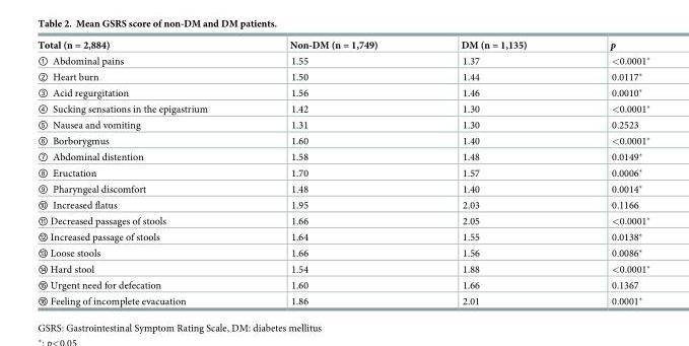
<table><thead><tr><td>Total (n = 2,884)</td><td>Non-DM (n = 1,749)</td><td>DM (n = 1,135)</td><td>p</td></tr></thead><tbody><tr><td>① Abdominal pains</td><td>1.55</td><td>1.37</td><td>&lt;0.0001*</td></tr><tr><td>② Heart burn</td><td>1.50</td><td>1.44</td><td>0.0117*</td></tr><tr><td>③ Acid regurgitation</td><td>1.56</td><td>1.46</td><td>0.0010*</td></tr><tr><td>④ Sucking sensations in the epigastrium</td><td>1.42</td><td>1.30</td><td>&lt;0.0001*</td></tr><tr><td>⑤ Nausea and vomiting</td><td>1.31</td><td>1.30</td><td>0.2523</td></tr><tr><td>⑥ Borborygmus</td><td>1.60</td><td>1.40</td><td>&lt;0.0001*</td></tr><tr><td>⑦ Abdominal distention</td><td>1.58</td><td>1.48</td><td>0.0149*</td></tr><tr><td>⑧ Eructation</td><td>1.70</td><td>1.57</td><td>0.0006*</td></tr><tr><td>⑨ Pharyngeal discomfort</td><td>1.48</td><td>1.40</td><td>0.0014*</td></tr><tr><td>⑩ Increased flatus</td><td>1.95</td><td>2.03</td><td>0.1166</td></tr><tr><td>⑪ Decreased passages of stools</td><td>1.66</td><td>2.05</td><td>&lt;0.0001*</td></tr><tr><td>⑫ Increased passage of stools</td><td>1.64</td><td>1.55</td><td>0.0138*</td></tr><tr><td>⑬ Loose stools</td><td>1.66</td><td>1.56</td><td>0.0086*</td></tr><tr><td>⑭ Hard stool</td><td>1.54</td><td>1.88</td><td>&lt;0.0001*</td></tr><tr><td>⑮ Urgent need for defecation</td><td>1.60</td><td>1.66</td><td>0.1367</td></tr><tr><td>⑯ Feeling of incomplete evacuation</td><td>1.86</td><td>2.01</td><td>0.0001*</td></tr></tbody></table>